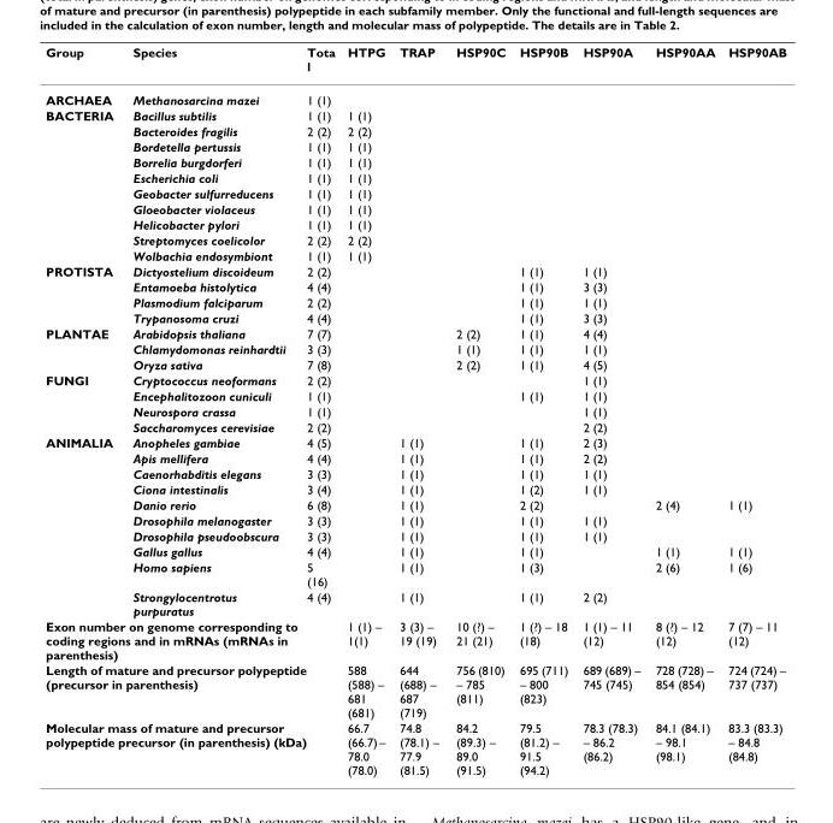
<table><thead><tr><td>Group</td><td>Species</td><td>Tota l</td><td>HTPG</td><td>TRAP</td><td>HSP90C</td><td>HSP90B</td><td>HSP90A</td><td>HSP90AA</td><td>HSP90AB</td></tr></thead><tbody><tr><td>ARCHAEA</td><td>Methanosarcina mazei</td><td>1 (1)</td><td></td><td></td><td></td><td></td><td></td><td></td><td></td></tr><tr><td rowspan="10">BACTERIA</td><td>Bacillus subtilis</td><td>1 (1)</td><td>1 (1)</td><td></td><td></td><td></td><td></td><td></td><td></td></tr><tr><td>Bacteroides fragilis</td><td>2 (2)</td><td>2 (2)</td><td></td><td></td><td></td><td></td><td></td><td></td></tr><tr><td>Bordetella pertussis</td><td>1 (1)</td><td>1 (1)</td><td></td><td></td><td></td><td></td><td></td><td></td></tr><tr><td>Borrelia burgdorferi</td><td>1 (1)</td><td>1 (1)</td><td></td><td></td><td></td><td></td><td></td><td></td></tr><tr><td>Escherichia coli</td><td>1 (1)</td><td>1 (1)</td><td></td><td></td><td></td><td></td><td></td><td></td></tr><tr><td>Geobacter sulfurreducens</td><td>1 (1)</td><td>1 (1)</td><td></td><td></td><td></td><td></td><td></td><td></td></tr><tr><td>Gloeobacter violaceus</td><td>1 (1)</td><td>1 (1)</td><td></td><td></td><td></td><td></td><td></td><td></td></tr><tr><td>Helicobacter pylori</td><td>1 (1)</td><td>1 (1)</td><td></td><td></td><td></td><td></td><td></td><td></td></tr><tr><td>Streptomyces coelicolor</td><td>2 (2)</td><td>2 (2)</td><td></td><td></td><td></td><td></td><td></td><td></td></tr><tr><td>Wolbachia endosymbiont</td><td>1 (1)</td><td>1 (1)</td><td></td><td></td><td></td><td></td><td></td><td></td></tr><tr><td rowspan="4">PROTISTA</td><td>Dictyostelium discoideum</td><td>2 (2)</td><td></td><td></td><td></td><td>1 (1)</td><td>1 (1)</td><td></td><td></td></tr><tr><td>Entamoeba histolytica</td><td>4 (4)</td><td></td><td></td><td></td><td>1 (1)</td><td>3 (3)</td><td></td><td></td></tr><tr><td>Plasmodium falciparum</td><td>2 (2)</td><td></td><td></td><td></td><td>1 (1)</td><td>1 (1)</td><td></td><td></td></tr><tr><td>Trypanosoma cruzi</td><td>4 (4)</td><td></td><td></td><td></td><td>1 (1)</td><td>3 (3)</td><td></td><td></td></tr><tr><td rowspan="3">PLANTAE</td><td>Arabidopsis thaliana</td><td>7 (7)</td><td></td><td></td><td>2 (2)</td><td>1 (1)</td><td>4 (4)</td><td></td><td></td></tr><tr><td>Chlamydomonas reinhardtii</td><td>3 (3)</td><td></td><td></td><td>1 (1)</td><td>1 (1)</td><td>1 (1)</td><td></td><td></td></tr><tr><td>Oryza sativa</td><td>7 (8)</td><td></td><td></td><td>2 (2)</td><td>1 (1)</td><td>4 (5)</td><td></td><td></td></tr><tr><td rowspan="4">FUNGI</td><td>Cryptococcus neoformans</td><td>2 (2)</td><td></td><td></td><td></td><td></td><td>1 (1)</td><td></td><td></td></tr><tr><td>Encephalitozoon cuniculi</td><td>1 (1)</td><td></td><td></td><td></td><td>1 (1)</td><td>1 (1)</td><td></td><td></td></tr><tr><td>Neurospora crassa</td><td>1 (1)</td><td></td><td></td><td></td><td></td><td>1 (1)</td><td></td><td></td></tr><tr><td>Saccharomyces cerevisiae</td><td>2 (2)</td><td></td><td></td><td></td><td></td><td>2 (2)</td><td></td><td></td></tr><tr><td rowspan="10">ANIMALIA</td><td>Anopheles gambiae</td><td>4 (5)</td><td></td><td>1 (1)</td><td></td><td>1 (1)</td><td>2 (3)</td><td></td><td></td></tr><tr><td>Apis mellifera</td><td>4 (4)</td><td></td><td>1 (1)</td><td></td><td>1 (1)</td><td>2 (2)</td><td></td><td></td></tr><tr><td>Caenorhabditis elegans</td><td>3 (3)</td><td></td><td>1 (1)</td><td></td><td>1 (1)</td><td>1 (1)</td><td></td><td></td></tr><tr><td>Ciona intestinalis</td><td>3 (4)</td><td></td><td>1 (1)</td><td></td><td>1 (2)</td><td>1 (1)</td><td></td><td></td></tr><tr><td>Danio rerio</td><td>6 (8)</td><td></td><td>1 (1)</td><td></td><td>2 (2)</td><td></td><td>2 (4)</td><td>1 (1)</td></tr><tr><td>Drosophila melanogaster</td><td>3 (3)</td><td></td><td>1 (1)</td><td></td><td>1 (1)</td><td>1 (1)</td><td></td><td></td></tr><tr><td>Drosophila pseudoobscura</td><td>3 (3)</td><td></td><td>1 (1)</td><td></td><td>1 (1)</td><td>1 (1)</td><td></td><td></td></tr><tr><td>Gallus gallus</td><td>4 (4)</td><td></td><td>1 (1)</td><td></td><td>1 (1)</td><td></td><td>1 (1)</td><td>1 (1)</td></tr><tr><td>Homo sapiens</td><td>5 (16)</td><td></td><td>1 (1)</td><td></td><td>1 (3)</td><td></td><td>2 (6)</td><td>1 (6)</td></tr><tr><td>Strongylocentrotus purpuratus</td><td>4 (4)</td><td></td><td>1 (1)</td><td></td><td>1 (1)</td><td>2 (2)</td><td></td><td></td></tr><tr><td colspan="3">Exon number on genome corresponding to coding regions and in mRNAs (mRNAs in parenthesis)</td><td>1 (1) – 1(1)</td><td>3 (3) – 19 (19)</td><td>10 (?) – 21 (21)</td><td>1 (?) – 18 (18)</td><td>1 (1) – 11 (12)</td><td>8 (?) – 12 (12)</td><td>7 (7) – 11 (12)</td></tr><tr><td colspan="3">Length of mature and precursor polypeptide (precursor in parenthesis)</td><td>588 (588) – 681 (681)</td><td>644 (688) – 687 (719)</td><td>756 (810) – 785 (811)</td><td>695 (711) – 800 (823)</td><td>689 (689) – 745 (745)</td><td>728 (728) – 854 (854)</td><td>724 (724) – 737 (737)</td></tr><tr><td colspan="3">Molecular mass of mature and precursor polypeptide precursor (in parenthesis) (kDa)</td><td>66.7 (66.7) – 78.0 (78.0)</td><td>74.8 (78.1) – 77.9 (81.5)</td><td>84.2 (89.3) – 89.0 (91.5)</td><td>79.5 (81.2) – 91.5 (94.2)</td><td>78.3 (78.3) – 86.2 (86.2)</td><td>84.1 (84.1) – 98.1 (98.1)</td><td>83.3 (83.3) – 84.8 (84.8)</td></tr></tbody></table>